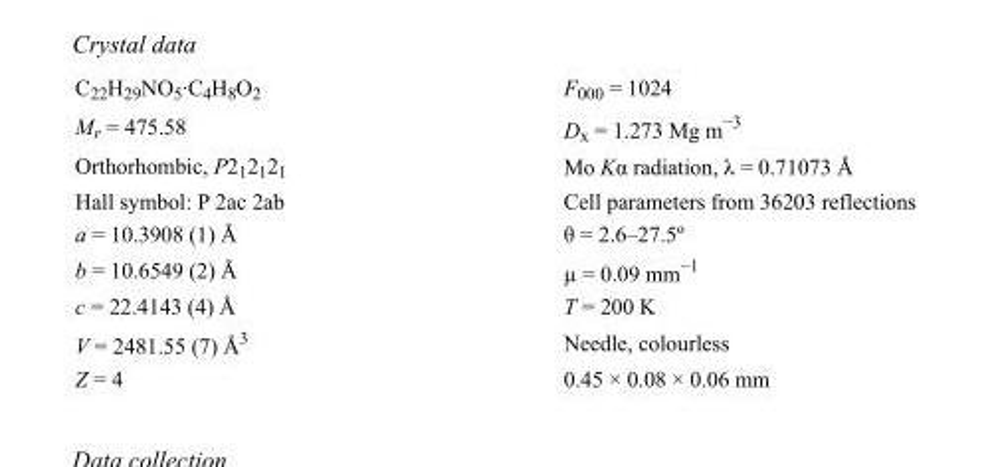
<table><tbody><tr><td>C<sub>22</sub>H<sub>29</sub>NO<sub>5</sub>·C<sub>4</sub>H<sub>8</sub>O<sub>2</sub></td><td>F000 = 1024</td></tr><tr><td>M<sub>r</sub> = 475.58</td><td>D<sub>x</sub> = 1.273 Mg m<sup>−3</sup></td></tr><tr><td>Orthorhombic, P2<sub>1</sub>2<sub>1</sub>2<sub>1</sub></td><td>Mo Kα radiation, λ = 0.71073 Å</td></tr><tr><td>Hall symbol: P 2ac 2ab</td><td>Cell parameters from 36203 reflections</td></tr><tr><td>a = 10.3908 (1) Å</td><td>θ = 2.6–27.5º</td></tr><tr><td>b = 10.6549 (2) Å</td><td>µ = 0.09 mm<sup>−1</sup></td></tr><tr><td>c = 22.4143 (4) Å</td><td>T = 200 K</td></tr><tr><td>V = 2481.55 (7) Å<sup>3</sup></td><td>Needle, colourless</td></tr><tr><td>Z = 4</td><td>0.45 × 0.08 × 0.06 mm</td></tr></tbody></table>